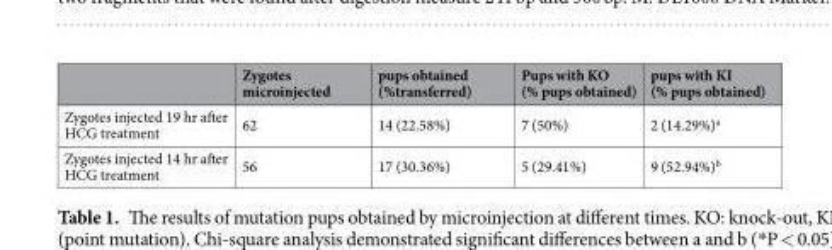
<table><thead><tr><td></td><td>Zygotes microinjected</td><td>pups obtained (%transferred)</td><td>Pups with KO (% pups obtained)</td><td>pups with KI (% pups obtained)</td></tr></thead><tbody><tr><td>Zygotes injected 19 hr after HCG treatment</td><td>62</td><td>14 (22.58%)</td><td>7 (50%)</td><td>2 (14.29%)<sup>a</sup></td></tr><tr><td>Zygotes injected 14 hr after HCG treatment</td><td>56</td><td>17 (30.36%)</td><td>5 (29.41%)</td><td>9 (52.94%)<sup>b</sup></td></tr></tbody></table>